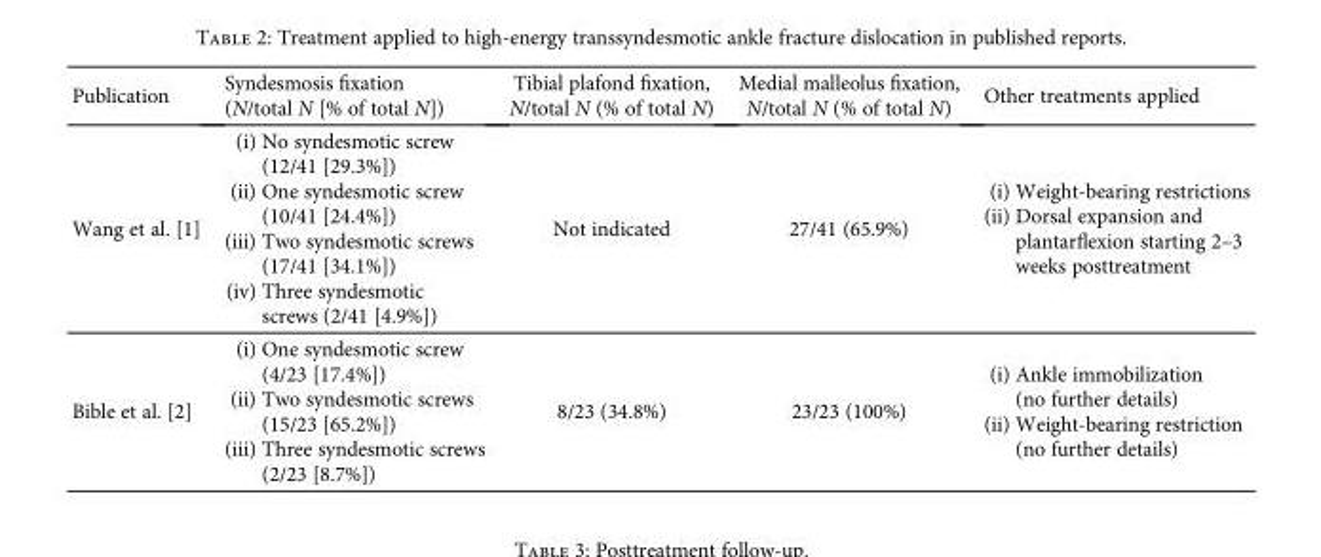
<table><thead><tr><td>Publication</td><td>Syndesmosis fixation (N/total N [% of total N])</td><td>Tibial plafond fixation, N/total N (% of total N)</td><td>Medial malleolus fixation, N/total N (% of total N)</td><td>Other treatments applied</td></tr></thead><tbody><tr><td>Wang et al. [1]</td><td>(i) No syndesmotic screw (12/41 [29.3%]) (ii) One syndesmotic screw (10/41 [24.4%]) (iii) Two syndesmotic screws (17/41 [34.1%]) (iv) Three syndesmotic screws (2/41 [4.9%])</td><td>Not indicated</td><td>27/41 (65.9%)</td><td>(i) Weight-bearing restrictions (ii) Dorsal expansion and plantarflexion starting 2–3 weeks posttreatment</td></tr><tr><td>Bible et al. [2]</td><td>(i) One syndesmotic screw (4/23 [17.4%]) (ii) Two syndesmotic screws (15/23 [65.2%]) (iii) Three syndesmotic screws (2/23 [8.7%])</td><td>8/23 (34.8%)</td><td>23/23 (100%)</td><td>(i) Ankle immobilization (no further details) (ii) Weight-bearing restriction (no further details)</td></tr></tbody></table>